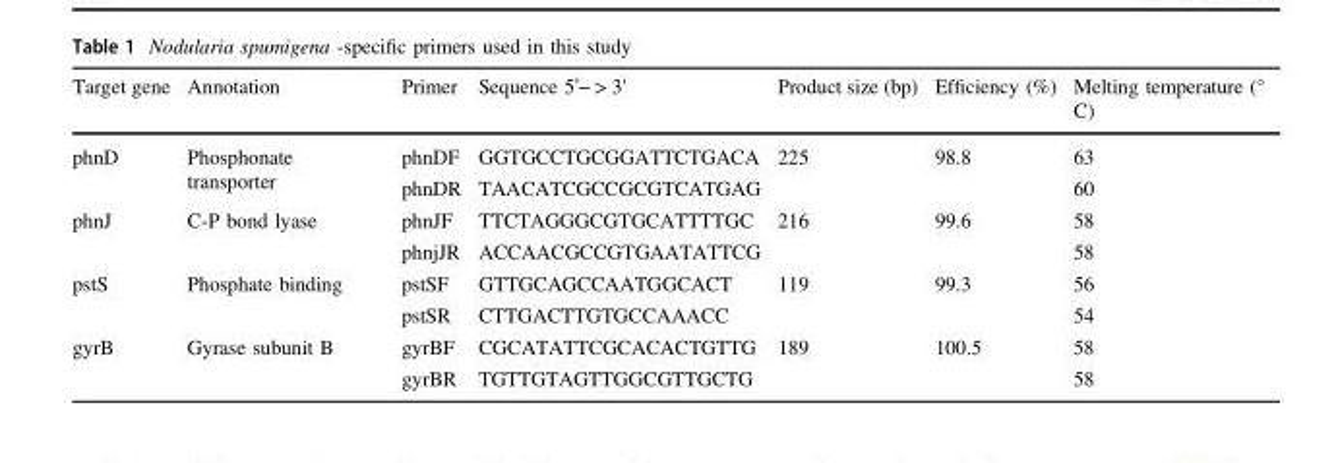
<table><thead><tr><td>Target gene</td><td>Annotation</td><td>Primer</td><td>Sequence 5’– &gt; 3&#x27;</td><td>Product size (bp)</td><td>Efficiency (%)</td><td>Melting temperature (° C)</td></tr></thead><tbody><tr><td rowspan="2">phnD</td><td rowspan="2">Phosphonate transporter</td><td>phnDF</td><td>GGTGCCTGCGGATTCTGACA</td><td rowspan="2">225</td><td rowspan="2">98.8</td><td>63</td></tr><tr><td>phnDR</td><td>TAACATCGCCGCGTCATGAG</td><td>60</td></tr><tr><td rowspan="2">phnJ</td><td rowspan="2">C-P bond lyase</td><td>phnJF</td><td>TTCTAGGGCGTGCATTTTGC</td><td rowspan="2">216</td><td rowspan="2">99.6</td><td>58</td></tr><tr><td>phnjJR</td><td>ACCAACGCCGTGAATATTCG</td><td>58</td></tr><tr><td rowspan="2">pstS</td><td rowspan="2">Phosphate binding</td><td>pstSF</td><td>GTTGCAGCCAATGGCACT</td><td rowspan="2">119</td><td rowspan="2">99.3</td><td>56</td></tr><tr><td>pstSR</td><td>CTTGACTTGTGCCAAACC</td><td>54</td></tr><tr><td rowspan="2">gyrB</td><td rowspan="2">Gyrase subunit B</td><td>gyrBF</td><td>CGCATATTCGCACACTGTTG</td><td rowspan="2">189</td><td rowspan="2">100.5</td><td>58</td></tr><tr><td>gyrBR</td><td>TGTTGTAGTTGGCGTTGCTG</td><td>58</td></tr></tbody></table>